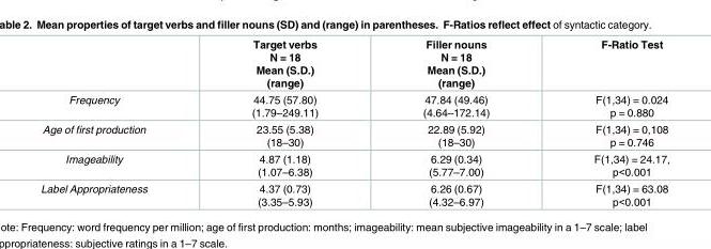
<table><thead><tr><td></td><td>Target verbs N = 18 Mean (S.D.) (range)</td><td>Filler nouns N = 18 Mean (S.D.) (range)</td><td>F-Ratio Test</td></tr></thead><tbody><tr><td>Frequency</td><td>44.75 (57.80) (1.79–249.11)</td><td>47.84 (49.46) (4.64–172.14)</td><td>F(1,34) = 0.024 p = 0.880</td></tr><tr><td>Age of first production</td><td>23.55 (5.38) (18–30)</td><td>22.89 (5.92) (18–30)</td><td>F(1,34) = 0,108 p = 0.746</td></tr><tr><td>Imageability</td><td>4.87 (1.18) (1.07–6.38)</td><td>6.29 (0.34) (5.77–7.00)</td><td>F(1,34) = 24.17, p&lt;0.001</td></tr><tr><td>Label Appropriateness</td><td>4.37 (0.73) (3.35–5.93)</td><td>6.26 (0.67) (4.32–6.97)</td><td>F(1,34) = 63.08 p&lt;0.001</td></tr></tbody></table>